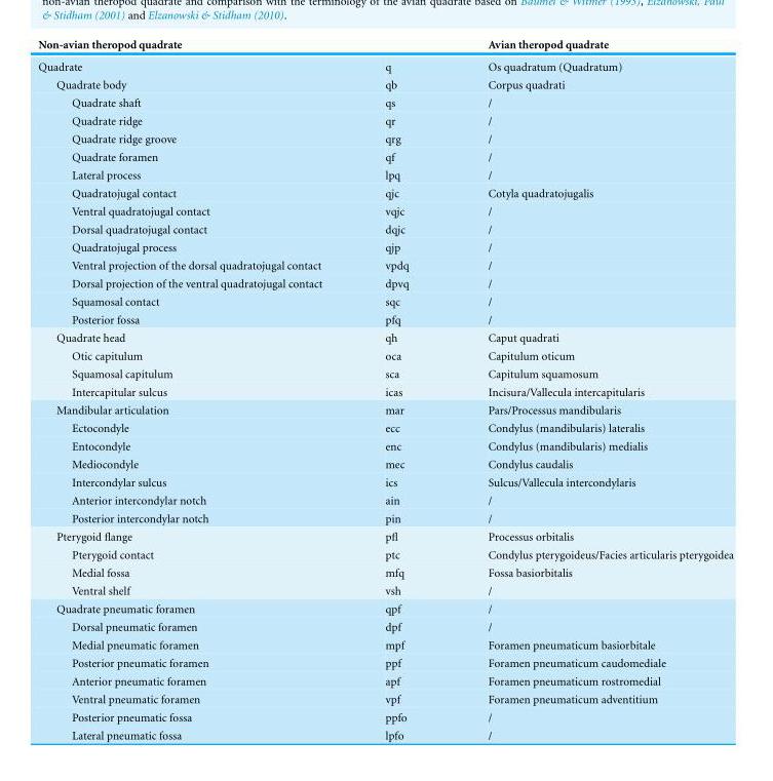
<table><thead><tr><td>Non-avian theropod quadrate</td><td></td><td>Avian theropod quadrate</td></tr></thead><tbody><tr><td>Quadrate</td><td>q</td><td>Os quadratum (Quadratum)</td></tr><tr><td>Quadrate body</td><td>qb</td><td>Corpus quadrati</td></tr><tr><td>Quadrate shaft</td><td>qs</td><td>/</td></tr><tr><td>Quadrate ridge</td><td>qr</td><td>/</td></tr><tr><td>Quadrate ridge groove</td><td>qrg</td><td>/</td></tr><tr><td>Quadrate foramen</td><td>qf</td><td>/</td></tr><tr><td>Lateral process</td><td>lpq</td><td>/</td></tr><tr><td>Quadratojugal contact</td><td>qjc</td><td>Cotyla quadratojugalis</td></tr><tr><td>Ventral quadratojugal contact</td><td>vqjc</td><td>/</td></tr><tr><td>Dorsal quadratojugal contact</td><td>dqjc</td><td>/</td></tr><tr><td>Quadratojugal process</td><td>qjp</td><td>/</td></tr><tr><td>Ventral projection of the dorsal quadratojugal contact</td><td>vpdq</td><td>/</td></tr><tr><td>Dorsal projection of the ventral quadratojugal contact</td><td>dpvq</td><td>/</td></tr><tr><td>Squamosal contact</td><td>sqc</td><td>/</td></tr><tr><td>Posterior fossa</td><td>pfq</td><td>/</td></tr><tr><td>Quadrate head</td><td>qh</td><td>Caput quadrati</td></tr><tr><td>Otic capitulum</td><td>oca</td><td>Capitulum oticum</td></tr><tr><td>Squamosal capitulum</td><td>sca</td><td>Capitulum squamosum</td></tr><tr><td>Intercapitular sulcus</td><td>icas</td><td>Incisura/Vallecula intercapitularis</td></tr><tr><td>Mandibular articulation</td><td>mar</td><td>Pars/Processus mandibularis</td></tr><tr><td>Ectocondyle</td><td>ecc</td><td>Condylus (mandibularis) lateralis</td></tr><tr><td>Entocondyle</td><td>enc</td><td>Condylus (mandibularis) medialis</td></tr><tr><td>Mediocondyle</td><td>mec</td><td>Condylus caudalis</td></tr><tr><td>Intercondylar sulcus</td><td>ics</td><td>Sulcus/Vallecula intercondylaris</td></tr><tr><td>Anterior intercondylar notch</td><td>ain</td><td>/</td></tr><tr><td>Posterior intercondylar notch</td><td>pin</td><td>/</td></tr><tr><td>Pterygoid flange</td><td>pfl</td><td>Processus orbitalis</td></tr><tr><td>Pterygoid contact</td><td>ptc</td><td>Condylus pterygoideus/Facies articularis pterygoidea</td></tr><tr><td>Medial fossa</td><td>mfq</td><td>Fossa basiorbitalis</td></tr><tr><td>Ventral shelf</td><td>vsh</td><td>/</td></tr><tr><td>Quadrate pneumatic foramen</td><td>qpf</td><td>/</td></tr><tr><td>Dorsal pneumatic foramen</td><td>dpf</td><td>/</td></tr><tr><td>Medial pneumatic foramen</td><td>mpf</td><td>Foramen pneumaticum basiorbitale</td></tr><tr><td>Posterior pneumatic foramen</td><td>ppf</td><td>Foramen pneumaticum caudomediale</td></tr><tr><td>Anterior pneumatic foramen</td><td>apf</td><td>Foramen pneumaticum rostromedial</td></tr><tr><td>Ventral pneumatic foramen</td><td>vpf</td><td>Foramen pneumaticum adventitium</td></tr><tr><td>Posterior pneumatic fossa</td><td>ppfo</td><td>/</td></tr><tr><td>Lateral pneumatic fossa</td><td>lpfo</td><td>/</td></tr></tbody></table>